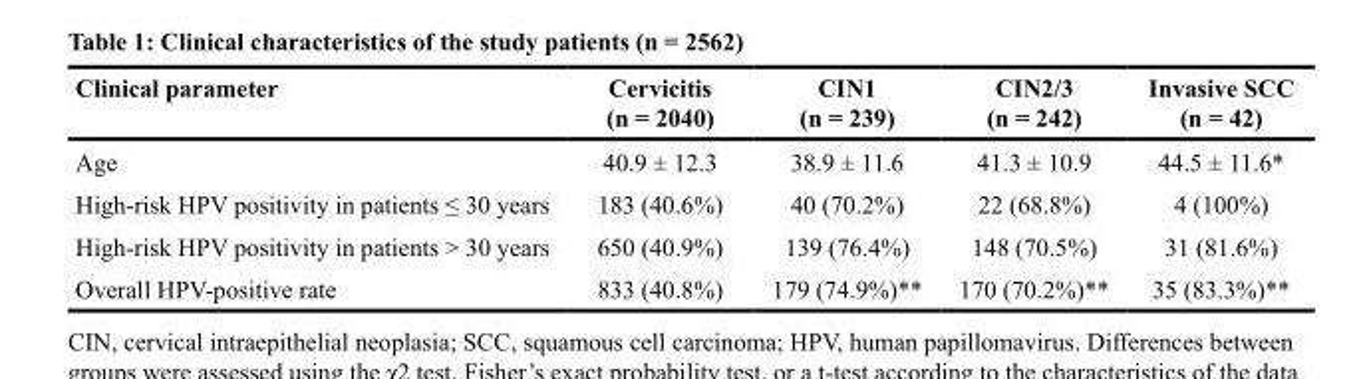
<table><thead><tr><td>Clinical parameter</td><td>Cervicitis (n = 2040)</td><td>CIN1 (n = 239)</td><td>CIN2/3 (n = 242)</td><td>Invasive SCC (n = 42)</td></tr></thead><tbody><tr><td>Age</td><td>40.9 ± 12.3</td><td>38.9 ± 11.6</td><td>41.3 ± 10.9</td><td>44.5 ± 11.6*</td></tr><tr><td>High-risk HPV positivity in patients ≤ 30 years</td><td>183 (40.6%)</td><td>40 (70.2%)</td><td>22 (68.8%)</td><td>4 (100%)</td></tr><tr><td>High-risk HPV positivity in patients &gt; 30 years</td><td>650 (40.9%)</td><td>139 (76.4%)</td><td>148 (70.5%)</td><td>31 (81.6%)</td></tr><tr><td>Overall HPV-positive rate</td><td>833 (40.8%)</td><td>179 (74.9%)**</td><td>170 (70.2%)**</td><td>35 (83.3%)**</td></tr></tbody></table>